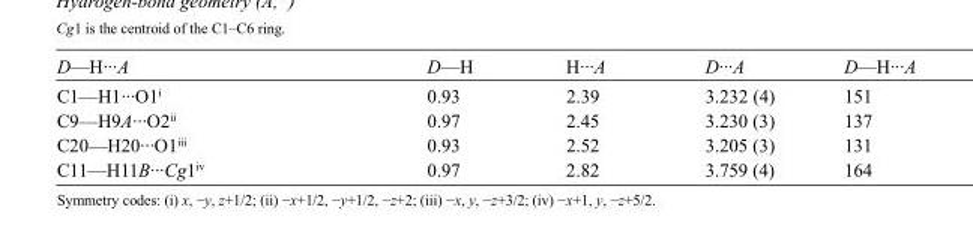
<table><tbody><tr><td>D—H···A</td><td>D—H</td><td>H···A</td><td>D···A</td><td>D—H···A</td></tr><tr><td>C1—H1···O1<sup>i</sup></td><td>0.93</td><td>2.39</td><td>3.232 (4)</td><td>151</td></tr><tr><td>C9—H9A···O2<sup>ii</sup></td><td>0.97</td><td>2.45</td><td>3.230 (3)</td><td>137</td></tr><tr><td>C20—H20···O1<sup>iii</sup></td><td>0.93</td><td>2.52</td><td>3.205 (3)</td><td>131</td></tr><tr><td>C11—H11B···Cg1<sup>iv</sup></td><td>0.97</td><td>2.82</td><td>3.759 (4)</td><td>164</td></tr></tbody></table>